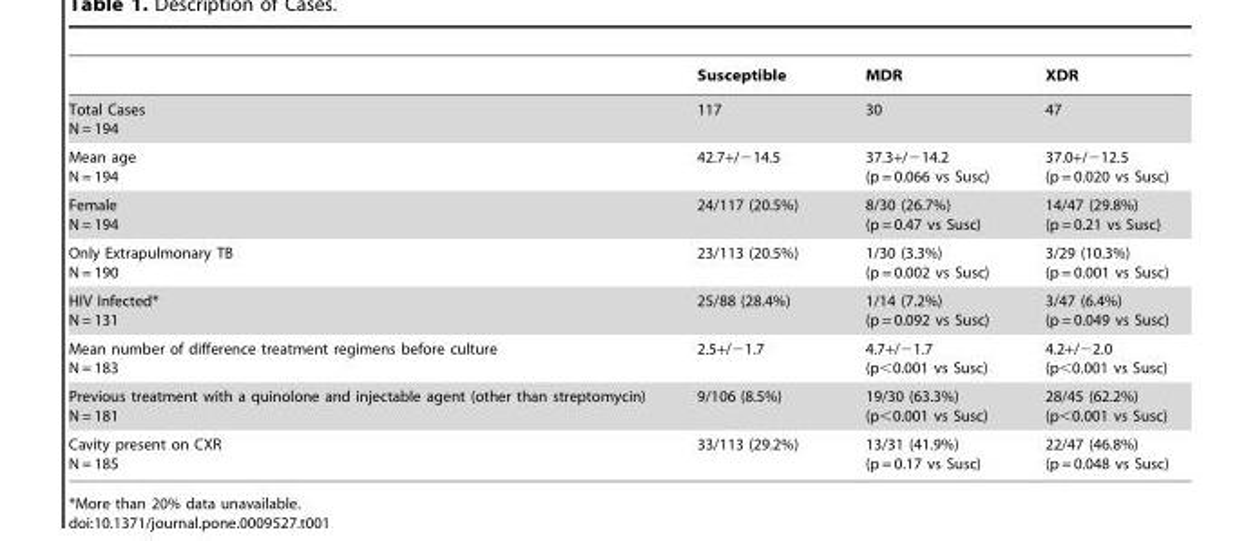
<table><thead><tr><td></td><td>Susceptible</td><td>MDR</td><td>XDR</td></tr></thead><tbody><tr><td>Total Cases N = 194</td><td>117</td><td>30</td><td>47</td></tr><tr><td>Mean age N = 194</td><td>42.7+/−14.5</td><td>37.3+/−14.2 (p = 0.066 vs Susc)</td><td>37.0+/−12.5 (p = 0.020 vs Susc)</td></tr><tr><td>Female N = 194</td><td>24/117 (20.5%)</td><td>8/30 (26.7%) (p = 0.47 vs Susc)</td><td>14/47 (29.8%) (p = 0.21 vs Susc)</td></tr><tr><td>Only Extrapulmonary TB N = 190</td><td>23/113 (20.5%)</td><td>1/30 (3.3%) (p = 0.002 vs Susc)</td><td>3/29 (10.3%) (p = 0.001 vs Susc)</td></tr><tr><td>HIV Infected* N = 131</td><td>25/88 (28.4%)</td><td>1/14 (7.2%) (p = 0.092 vs Susc)</td><td>3/47 (6.4%) (p = 0.049 vs Susc)</td></tr><tr><td>Mean number of difference treatment regimens before culture N = 183</td><td>2.5+/−1.7</td><td>4.7+/−1.7 (p&lt;0.001 vs Susc)</td><td>4.2+/−2.0 (p&lt;0.001 vs Susc)</td></tr><tr><td>Previous treatment with a quinolone and injectable agent (other than streptomycin) N = 181</td><td>9/106 (8.5%)</td><td>19/30 (63.3%) (p&lt;0.001 vs Susc)</td><td>28/45 (62.2%) (p&lt;0.001 vs Susc)</td></tr><tr><td>Cavity present on CXR N = 185</td><td>33/113 (29.2%)</td><td>13/31 (41.9%) (p = 0.17 vs Susc)</td><td>22/47 (46.8%) (p = 0.048 vs Susc)</td></tr></tbody></table>